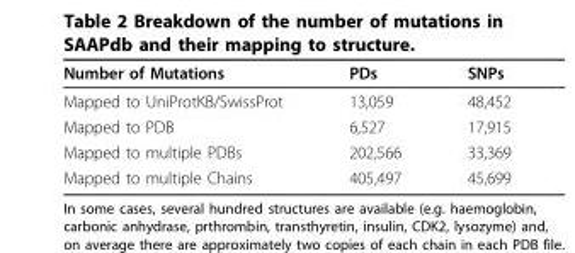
<table><thead><tr><td>Number of Mutations</td><td>PDs</td><td>SNPs</td></tr></thead><tbody><tr><td>Mapped to UniProtKB/SwissProt</td><td>13,059</td><td>48,452</td></tr><tr><td>Mapped to PDB</td><td>6,527</td><td>17,915</td></tr><tr><td>Mapped to multiple PDBs</td><td>202,566</td><td>33,369</td></tr><tr><td>Mapped to multiple Chains</td><td>405,497</td><td>45,699</td></tr></tbody></table>